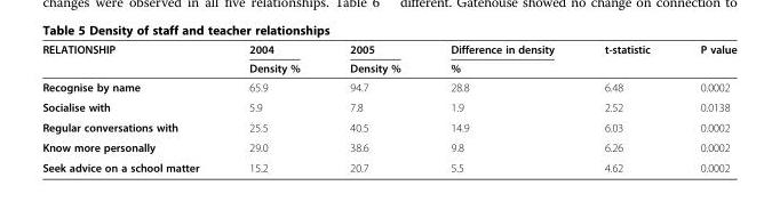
<table><thead><tr><td rowspan="2">RELATIONSHIP</td><td rowspan="2">2004 Density %</td><td rowspan="2">2005 Density %</td><td rowspan="2">Difference in density %</td><td rowspan="2">t-statistic</td><td rowspan="2">P value</td></tr><tr></tr></thead><tbody><tr><td>Recognise by name</td><td>65.9</td><td>94.7</td><td>28.8</td><td>6.48</td><td>0.0002</td></tr><tr><td>Socialise with</td><td>5.9</td><td>7.8</td><td>1.9</td><td>2.52</td><td>0.0138</td></tr><tr><td>Regular conversations with</td><td>25.5</td><td>40.5</td><td>14.9</td><td>6.03</td><td>0.0002</td></tr><tr><td>Know more personally</td><td>29.0</td><td>38.6</td><td>9.8</td><td>6.26</td><td>0.0002</td></tr><tr><td>Seek advice on a school matter</td><td>15.2</td><td>20.7</td><td>5.5</td><td>4.62</td><td>0.0002</td></tr></tbody></table>